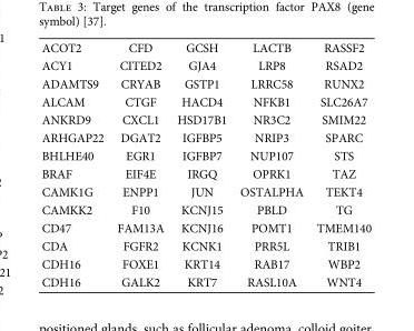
<table><tbody><tr><td>ACOT2</td><td>CFD</td><td>GCSH</td><td>LACTB</td><td>RASSF2</td></tr><tr><td>ACY1</td><td>CITED2</td><td>GJA4</td><td>LRP8</td><td>RSAD2</td></tr><tr><td>ADAMTS9</td><td>CRYAB</td><td>GSTP1</td><td>LRRC58</td><td>RUNX2</td></tr><tr><td>ALCAM</td><td>CTGF</td><td>HACD4</td><td>NFKB1</td><td>SLC26A7</td></tr><tr><td>ANKRD9</td><td>CXCL1</td><td>HSD17B1</td><td>NR3C2</td><td>SMIM22</td></tr><tr><td>ARHGAP22</td><td>DGAT2</td><td>IGFBP5</td><td>NRIP3</td><td>SPARC</td></tr><tr><td>BHLHE40</td><td>EGR1</td><td>IGFBP7</td><td>NUP107</td><td>STS</td></tr><tr><td>BRAF</td><td>EIF4E</td><td>IRGQ</td><td>OPRK1</td><td>TAZ</td></tr><tr><td>CAMK1G</td><td>ENPP1</td><td>JUN</td><td>OSTALPHA</td><td>TEKT4</td></tr><tr><td>CAMKK2</td><td>F10</td><td>KCNJ15</td><td>PBLD</td><td>TG</td></tr><tr><td>CD47</td><td>FAM13A</td><td>KCNJ16</td><td>POMT1</td><td>TMEM140</td></tr><tr><td>CDA</td><td>FGFR2</td><td>KCNK1</td><td>PRR5L</td><td>TRIB1</td></tr><tr><td>CDH16</td><td>FOXE1</td><td>KRT14</td><td>RAB17</td><td>WBP2</td></tr><tr><td>CDH16</td><td>GALK2</td><td>KRT7</td><td>RASL10A</td><td>WNT4</td></tr></tbody></table>